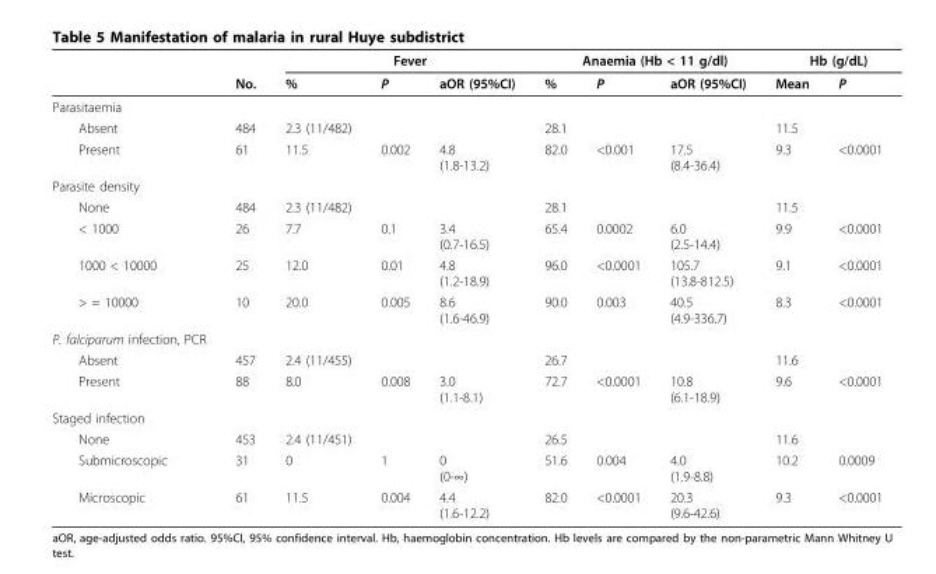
<table><thead><tr><td rowspan="2"></td><td rowspan="2">No.</td><td colspan="3">Fever</td><td colspan="3">Anaemia (Hb &lt; 11 g/dl)</td><td colspan="2">Hb (g/dL)</td></tr><tr><td>%</td><td>P</td><td>aOR (95%CI)</td><td>%</td><td>P</td><td>aOR (95%CI)</td><td>Mean</td><td>P</td></tr></thead><tbody><tr><td colspan="10">Parasitaemia</td></tr><tr><td>Absent</td><td>484</td><td>2.3 (11/482)</td><td></td><td></td><td>28.1</td><td></td><td></td><td>11.5</td><td></td></tr><tr><td>Present</td><td>61</td><td>11.5</td><td>0.002</td><td>4.8 (1.8-13.2)</td><td>82.0</td><td>&lt;0.001</td><td>17.5 (8.4-36.4)</td><td>9.3</td><td>&lt;0.0001</td></tr><tr><td colspan="10">Parasite density</td></tr><tr><td>None</td><td>484</td><td>2.3 (11/482)</td><td></td><td></td><td>28.1</td><td></td><td></td><td>11.5</td><td></td></tr><tr><td>&lt; 1000</td><td>26</td><td>7.7</td><td>0.1</td><td>3.4 (0.7-16.5)</td><td>65.4</td><td>0.0002</td><td>6.0 (2.5-14.4)</td><td>9.9</td><td>&lt;0.0001</td></tr><tr><td>1000 &lt; 10000</td><td>25</td><td>12.0</td><td>0.01</td><td>4.8 (1.2-18.9)</td><td>96.0</td><td>&lt;0.0001</td><td>105.7 (13.8-812.5)</td><td>9.1</td><td>&lt;0.0001</td></tr><tr><td>&gt; = 10000</td><td>10</td><td>20.0</td><td>0.005</td><td>8.6 (1.6-46.9)</td><td>90.0</td><td>0.003</td><td>40.5 (4.9-336.7)</td><td>8.3</td><td>&lt;0.0001</td></tr><tr><td colspan="10">P. falciparum infection, PCR</td></tr><tr><td>Absent</td><td>457</td><td>2.4 (11/455)</td><td></td><td></td><td>26.7</td><td></td><td></td><td>11.6</td><td></td></tr><tr><td>Present</td><td>88</td><td>8.0</td><td>0.008</td><td>3.0 (1.1-8.1)</td><td>72.7</td><td>&lt;0.0001</td><td>10.8 (6.1-18.9)</td><td>9.6</td><td>&lt;0.0001</td></tr><tr><td colspan="10">Staged infection</td></tr><tr><td>None</td><td>453</td><td>2.4 (11/451)</td><td></td><td></td><td>26.5</td><td></td><td></td><td>11.6</td><td></td></tr><tr><td>Submicroscopic</td><td>31</td><td>0</td><td>1</td><td>0 (0-∞)</td><td>51.6</td><td>0.004</td><td>4.0 (1.9-8.8)</td><td>10.2</td><td>0.0009</td></tr><tr><td>Microscopic</td><td>61</td><td>11.5</td><td>0.004</td><td>4.4 (1.6-12.2)</td><td>82.0</td><td>&lt;0.0001</td><td>20.3 (9.6-42.6)</td><td>9.3</td><td>&lt;0.0001</td></tr></tbody></table>